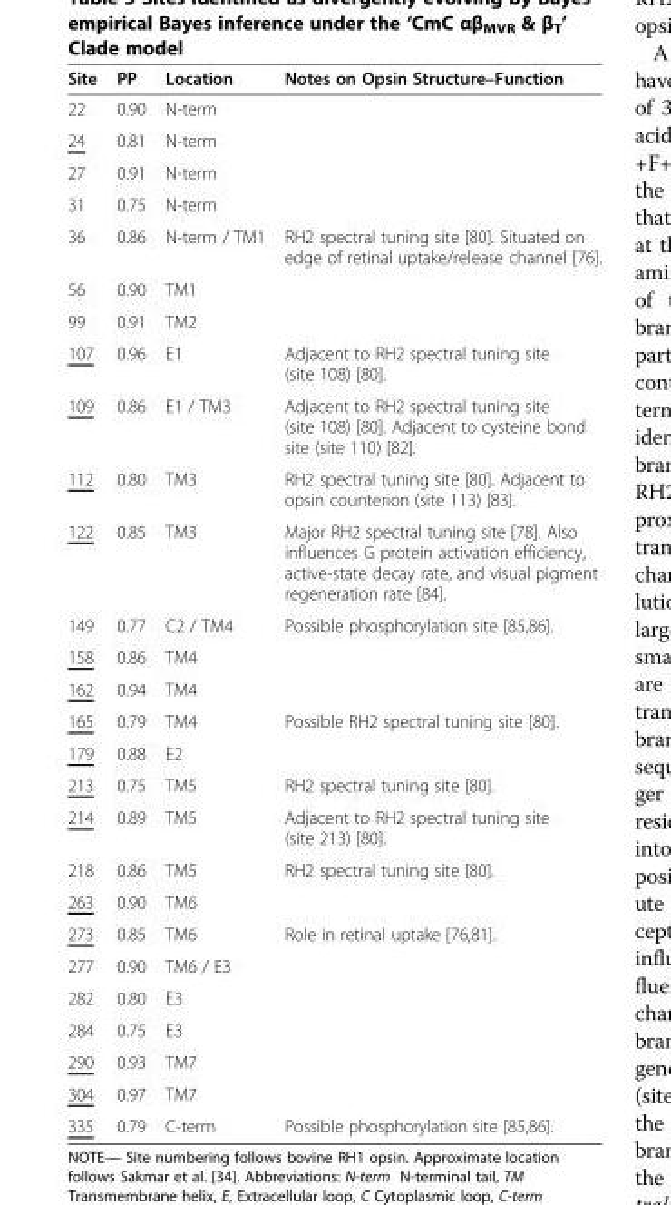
<table><thead><tr><td>Site</td><td>PP</td><td>Location</td><td>Notes on Opsin Structure–Function</td></tr></thead><tbody><tr><td>22</td><td>0.90</td><td>N-term</td><td></td></tr><tr><td>24</td><td>0.81</td><td>N-term</td><td></td></tr><tr><td>27</td><td>0.91</td><td>N-term</td><td></td></tr><tr><td>31</td><td>0.75</td><td>N-term</td><td></td></tr><tr><td>36</td><td>0.86</td><td>N-term / TM1</td><td>RH2 spectral tuning site [80]. Situated on edge of retinal uptake/release channel [76].</td></tr><tr><td>56</td><td>0.90</td><td>TM1</td><td></td></tr><tr><td>99</td><td>0.91</td><td>TM2</td><td></td></tr><tr><td>107</td><td>0.96</td><td>E1</td><td>Adjacent to RH2 spectral tuning site (site 108) [80].</td></tr><tr><td>109</td><td>0.86</td><td>E1 / TM3</td><td>Adjacent to RH2 spectral tuning site (site 108) [80]. Adjacent to cysteine bond site (site 110) [82].</td></tr><tr><td>112</td><td>0.80</td><td>TM3</td><td>RH2 spectral tuning site [80]. Adjacent to opsin counterion (site 113) [83].</td></tr><tr><td>122</td><td>0.85</td><td>TM3</td><td>Major RH2 spectral tuning site [78]. Also influences G protein activation efficiency, active-state decay rate, and visual pigment regeneration rate [84].</td></tr><tr><td>149</td><td>0.77</td><td>C2 / TM4</td><td>Possible phosphorylation site [85,86].</td></tr><tr><td>158</td><td>0.86</td><td>TM4</td><td></td></tr><tr><td>162</td><td>0.94</td><td>TM4</td><td></td></tr><tr><td>165</td><td>0.79</td><td>TM4</td><td>Possible RH2 spectral tuning site [80].</td></tr><tr><td>179</td><td>0.88</td><td>E2</td><td></td></tr><tr><td>213</td><td>0.75</td><td>TM5</td><td>RH2 spectral tuning site [80].</td></tr><tr><td>214</td><td>0.89</td><td>TM5</td><td>Adjacent to RH2 spectral tuning site (site 213) [80].</td></tr><tr><td>218</td><td>0.86</td><td>TM5</td><td>RH2 spectral tuning site [80].</td></tr><tr><td>263</td><td>0.90</td><td>TM6</td><td></td></tr><tr><td>273</td><td>0.85</td><td>TM6</td><td>Role in retinal uptake [76,81].</td></tr><tr><td>277</td><td>0.90</td><td>TM6 / E3</td><td></td></tr><tr><td>282</td><td>0.80</td><td>E3</td><td></td></tr><tr><td>284</td><td>0.75</td><td>E3</td><td></td></tr><tr><td>290</td><td>0.93</td><td>TM7</td><td></td></tr><tr><td>304</td><td>0.97</td><td>TM7</td><td></td></tr><tr><td>335</td><td>0.79</td><td>C-term</td><td>Possible phosphorylation site [85,86].</td></tr></tbody></table>